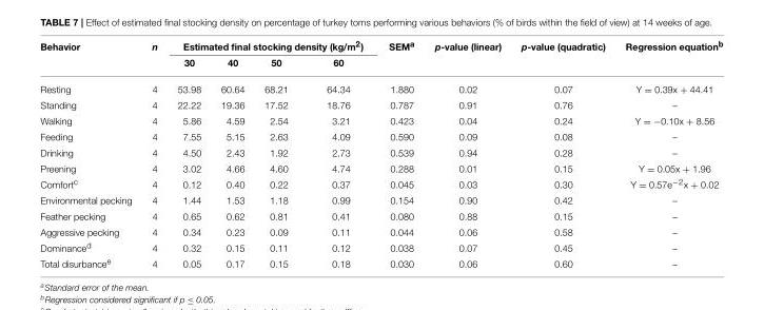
<table><thead><tr><td rowspan="2">Behavior</td><td rowspan="2">n</td><td colspan="4">Estimated final stocking density (kg/m<sup>2</sup>)</td><td rowspan="2">SEM<sup>a</sup></td><td rowspan="2">p-value (linear)</td><td rowspan="2">p-value (quadratic)</td><td rowspan="2">Regression equation<sup>b</sup></td></tr><tr><td>30</td><td>40</td><td>50</td><td>60</td></tr></thead><tbody><tr><td>Resting</td><td>4</td><td>53.98</td><td>60.64</td><td>68.21</td><td>64.34</td><td>1.880</td><td>0.02</td><td>0.07</td><td>Y = 0.39x + 44.41</td></tr><tr><td>Standing</td><td>4</td><td>22.22</td><td>19.36</td><td>17.52</td><td>18.76</td><td>0.787</td><td>0.91</td><td>0.76</td><td>–</td></tr><tr><td>Walking</td><td>4</td><td>5.86</td><td>4.59</td><td>2.54</td><td>3.21</td><td>0.423</td><td>0.04</td><td>0.24</td><td>Y = −0.10x + 8.56</td></tr><tr><td>Feeding</td><td>4</td><td>7.55</td><td>5.15</td><td>2.63</td><td>4.09</td><td>0.590</td><td>0.09</td><td>0.08</td><td>–</td></tr><tr><td>Drinking</td><td>4</td><td>4.50</td><td>2.43</td><td>1.92</td><td>2.73</td><td>0.539</td><td>0.94</td><td>0.28</td><td>–</td></tr><tr><td>Preening</td><td>4</td><td>3.02</td><td>4.66</td><td>4.60</td><td>4.74</td><td>0.288</td><td>0.01</td><td>0.15</td><td>Y = 0.05x + 1.96</td></tr><tr><td>Comfort<sup>c</sup></td><td>4</td><td>0.12</td><td>0.40</td><td>0.22</td><td>0.37</td><td>0.045</td><td>0.03</td><td>0.30</td><td>Y = 0.57e<sup>−2</sup>x + 0.02</td></tr><tr><td>Environmental pecking</td><td>4</td><td>1.44</td><td>1.53</td><td>1.18</td><td>0.99</td><td>0.154</td><td>0.90</td><td>0.42</td><td>–</td></tr><tr><td>Feather pecking</td><td>4</td><td>0.65</td><td>0.62</td><td>0.81</td><td>0.41</td><td>0.080</td><td>0.88</td><td>0.15</td><td>–</td></tr><tr><td>Aggressive pecking</td><td>4</td><td>0.34</td><td>0.23</td><td>0.09</td><td>0.11</td><td>0.044</td><td>0.06</td><td>0.58</td><td>–</td></tr><tr><td>Dominance<sup>d</sup></td><td>4</td><td>0.32</td><td>0.15</td><td>0.11</td><td>0.12</td><td>0.038</td><td>0.07</td><td>0.45</td><td>–</td></tr><tr><td>Total disurbance<sup>e</sup></td><td>4</td><td>0.05</td><td>0.17</td><td>0.15</td><td>0.18</td><td>0.030</td><td>0.06</td><td>0.60</td><td>–</td></tr></tbody></table>